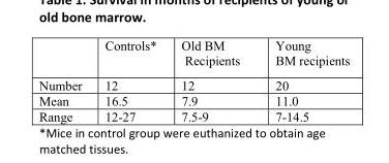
<table><thead><tr><td></td><td>Controls*</td><td>Old BM Recipients</td><td>Young BM recipients</td></tr></thead><tbody><tr><td>Number</td><td>12</td><td>12</td><td>20</td></tr><tr><td>Mean</td><td>16.5</td><td>7.9</td><td>11.0</td></tr><tr><td>Range</td><td>12-27</td><td>7.5-9</td><td>7-14.5</td></tr></tbody></table>